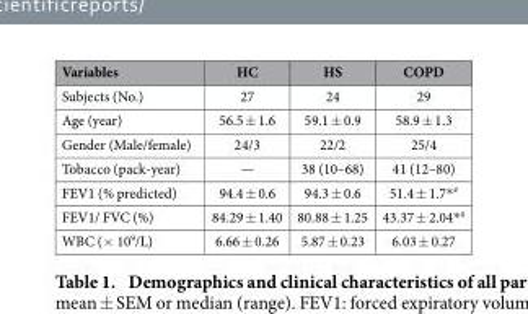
<table><thead><tr><td>Variables</td><td>HC</td><td>HS</td><td>COPD</td></tr></thead><tbody><tr><td>Subjects (No.)</td><td>27</td><td>24</td><td>29</td></tr><tr><td>Age (year)</td><td>56.5 ± 1.6</td><td>59.1 ± 0.9</td><td>58.9 ± 1.3</td></tr><tr><td>Gender (Male/female)</td><td>24/3</td><td>22/2</td><td>25/4</td></tr><tr><td>Tobacco (pack-year)</td><td>—</td><td>38 (10–68)</td><td>41 (12–80)</td></tr><tr><td>FEV1 (% predicted)</td><td>94.4 ± 0.6</td><td>94.3 ± 0.6</td><td>51.4 ± 1.7* <sup>#</sup></td></tr><tr><td>FEV1/ FVC (%)</td><td>84.29 ± 1.40</td><td>80.88 ± 1.25</td><td>43.37 ± 2.04* <sup>#</sup></td></tr><tr><td>WBC (× 10<sup>9</sup>/L)</td><td>6.66 ± 0.26</td><td>5.87 ± 0.23</td><td>6.03 ± 0.27</td></tr></tbody></table>